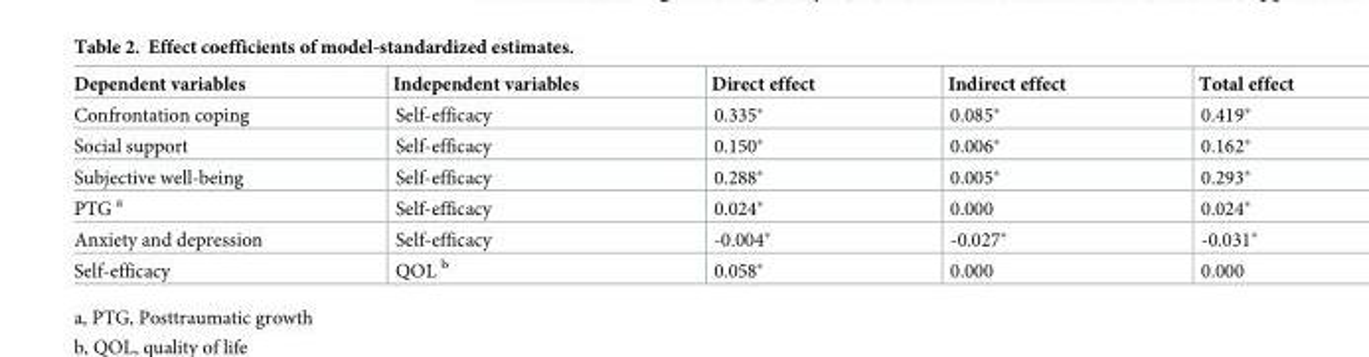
<table><thead><tr><td>Dependent variables</td><td>Independent variables</td><td>Direct effect</td><td>Indirect effect</td><td>Total effect</td></tr></thead><tbody><tr><td>Confrontation coping</td><td>Self-efficacy</td><td>0.335*</td><td>0.085*</td><td>0.419*</td></tr><tr><td>Social support</td><td>Self-efficacy</td><td>0.150*</td><td>0.006*</td><td>0.162*</td></tr><tr><td>Subjective well-being</td><td>Self-efficacy</td><td>0.288*</td><td>0.005*</td><td>0.293*</td></tr><tr><td>PTG <sup>a</sup></td><td>Self-efficacy</td><td>0.024*</td><td>0.000</td><td>0.024*</td></tr><tr><td>Anxiety and depression</td><td>Self-efficacy</td><td>-0.004*</td><td>-0.027*</td><td>-0.031*</td></tr><tr><td>Self-efficacy</td><td>QOL <sup>b</sup></td><td>0.058*</td><td>0.000</td><td>0.000</td></tr></tbody></table>